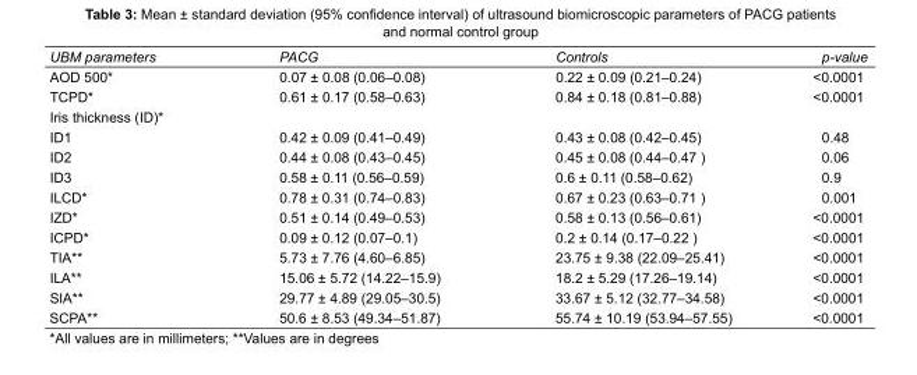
<table><tbody><tr><td>UBM parameters</td><td>PACG</td><td>Controls</td><td>p-value</td></tr><tr><td>AOD 500*</td><td>0.07 ± 0.08 (0.06–0.08)</td><td>0.22 ± 0.09 (0.21–0.24)</td><td>&lt;0.0001</td></tr><tr><td>TCPD*</td><td>0.61 ± 0.17 (0.58–0.63)</td><td>0.84 ± 0.18 (0.81–0.88)</td><td>&lt;0.0001</td></tr><tr><td colspan="4">Iris thickness (ID)*</td></tr><tr><td>ID1</td><td>0.42 ± 0.09 (0.41–0.49)</td><td>0.43 ± 0.08 (0.42–0.45)</td><td>0.48</td></tr><tr><td>ID2</td><td>0.44 ± 0.08 (0.43–0.45)</td><td>0.45 ± 0.08 (0.44–0.47 )</td><td>0.06</td></tr><tr><td>ID3</td><td>0.58 ± 0.11 (0.56–0.59)</td><td>0.6 ± 0.11 (0.58–0.62)</td><td>0.9</td></tr><tr><td>ILCD*</td><td>0.78 ± 0.31 (0.74–0.83)</td><td>0.67 ± 0.23 (0.63–0.71 )</td><td>0.001</td></tr><tr><td>IZD*</td><td>0.51 ± 0.14 (0.49–0.53)</td><td>0.58 ± 0.13 (0.56–0.61)</td><td>&lt;0.0001</td></tr><tr><td>ICPD*</td><td>0.09 ± 0.12 (0.07–0.1)</td><td>0.2 ± 0.14 (0.17–0.22 )</td><td>&lt;0.0001</td></tr><tr><td>TIA**</td><td>5.73 ± 7.76 (4.60–6.85)</td><td>23.75 ± 9.38 (22.09–25.41)</td><td>&lt;0.0001</td></tr><tr><td>ILA**</td><td>15.06 ± 5.72 (14.22–15.9)</td><td>18.2 ± 5.29 (17.26–19.14)</td><td>&lt;0.0001</td></tr><tr><td>SIA**</td><td>29.77 ± 4.89 (29.05–30.5)</td><td>33.67 ± 5.12 (32.77–34.58)</td><td>&lt;0.0001</td></tr><tr><td>SCPA**</td><td>50.6 ± 8.53 (49.34–51.87)</td><td>55.74 ± 10.19 (53.94–57.55)</td><td>&lt;0.0001</td></tr></tbody></table>